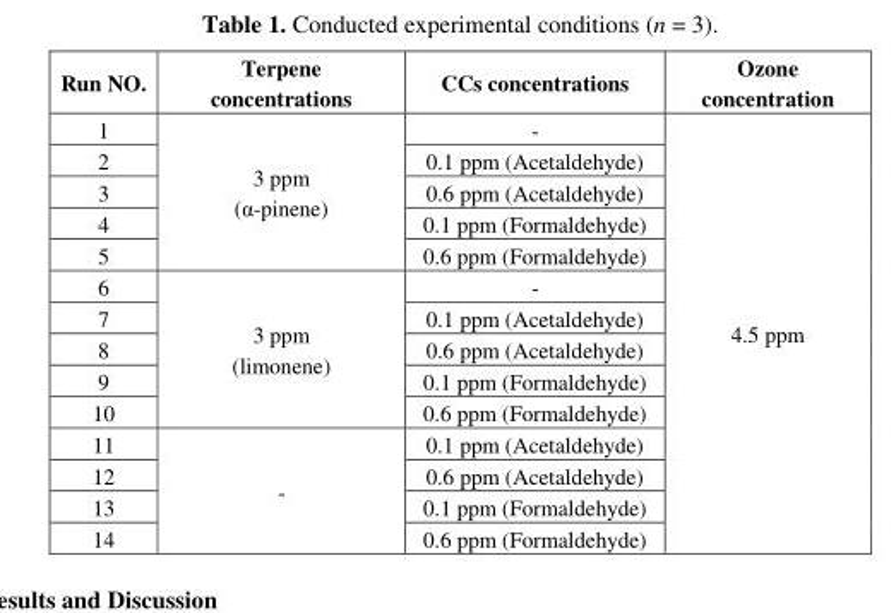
<table><thead><tr><td>Run NO.</td><td>Terpene concentrations</td><td>CCs concentrations</td><td>Ozone concentration</td></tr></thead><tbody><tr><td>1</td><td rowspan="5">3 ppm (α-pinene)</td><td>-</td><td rowspan="14">4.5 ppm</td></tr><tr><td>2</td><td>0.1 ppm (Acetaldehyde)</td></tr><tr><td>3</td><td>0.6 ppm (Acetaldehyde)</td></tr><tr><td>4</td><td>0.1 ppm (Formaldehyde)</td></tr><tr><td>5</td><td>0.6 ppm (Formaldehyde)</td></tr><tr><td>6</td><td rowspan="5">3 ppm (limonene)</td><td>-</td></tr><tr><td>7</td><td>0.1 ppm (Acetaldehyde)</td></tr><tr><td>8</td><td>0.6 ppm (Acetaldehyde)</td></tr><tr><td>9</td><td>0.1 ppm (Formaldehyde)</td></tr><tr><td>10</td><td>0.6 ppm (Formaldehyde)</td></tr><tr><td>11</td><td rowspan="4">-</td><td>0.1 ppm (Acetaldehyde)</td></tr><tr><td>12</td><td>0.6 ppm (Acetaldehyde)</td></tr><tr><td>13</td><td>0.1 ppm (Formaldehyde)</td></tr><tr><td>14</td><td>0.6 ppm (Formaldehyde)</td></tr></tbody></table>